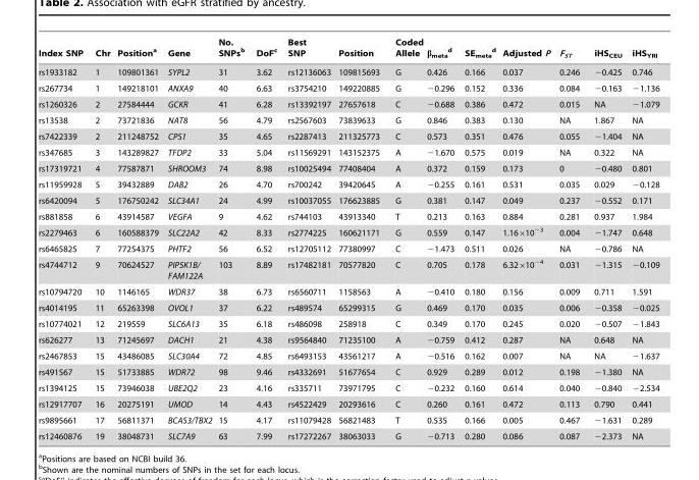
<table><thead><tr><td>Index SNP</td><td>Chr</td><td>Position<sup>a</sup></td><td>Gene</td><td>No. SNPs<sup>b</sup></td><td>DoF<sup>c</sup></td><td>Best SNP</td><td>Position</td><td>Coded Allele</td><td>β<sub>meta</sub> d</td><td>SE<sub>meta</sub> d</td><td>Adjusted P</td><td>F<sub>ST</sub></td><td>iHS<sub>CEU</sub></td><td>iHS<sub>YRI</sub></td></tr></thead><tbody><tr><td>rs1933182</td><td>1</td><td>109801361</td><td>SYPL2</td><td>31</td><td>3.62</td><td>rs12136063</td><td>109815693</td><td>G</td><td>0.426</td><td>0.166</td><td>0.037</td><td>0.246</td><td>−0.425</td><td>0.746</td></tr><tr><td>rs267734</td><td>1</td><td>149218101</td><td>ANXA9</td><td>40</td><td>6.63</td><td>rs3754210</td><td>149220885</td><td>G</td><td>−0.296</td><td>0.152</td><td>0.336</td><td>0.084</td><td>−0.163</td><td>−1.136</td></tr><tr><td>rs1260326</td><td>2</td><td>27584444</td><td>GCKR</td><td>41</td><td>6.28</td><td>rs13392197</td><td>27657618</td><td>C</td><td>−0.688</td><td>0.386</td><td>0.472</td><td>0.015</td><td>NA</td><td>−1.079</td></tr><tr><td>rs13538</td><td>2</td><td>73721836</td><td>NAT8</td><td>56</td><td>4.79</td><td>rs2567603</td><td>73839633</td><td>G</td><td>0.846</td><td>0.383</td><td>0.130</td><td>NA</td><td>1.867</td><td>NA</td></tr><tr><td>rs7422339</td><td>2</td><td>211248752</td><td>CPS1</td><td>35</td><td>4.65</td><td>rs2287413</td><td>211325773</td><td>C</td><td>0.573</td><td>0.351</td><td>0.476</td><td>0.055</td><td>−1.404</td><td>NA</td></tr><tr><td>rs347685</td><td>3</td><td>143289827</td><td>TFDP2</td><td>33</td><td>5.04</td><td>rs11569291</td><td>143152375</td><td>A</td><td>−1.670</td><td>0.575</td><td>0.019</td><td>NA</td><td>0.322</td><td>NA</td></tr><tr><td>rs17319721</td><td>4</td><td>77587871</td><td>SHROOM3</td><td>74</td><td>8.98</td><td>rs10025494</td><td>77408404</td><td>A</td><td>0.372</td><td>0.159</td><td>0.173</td><td>0</td><td>−0.480</td><td>0.801</td></tr><tr><td>rs11959928</td><td>5</td><td>39432889</td><td>DAB2</td><td>26</td><td>4.70</td><td>rs700242</td><td>39420645</td><td>A</td><td>−0.255</td><td>0.161</td><td>0.531</td><td>0.035</td><td>0.029</td><td>−0.128</td></tr><tr><td>rs6420094</td><td>5</td><td>176750242</td><td>SLC34A1</td><td>24</td><td>4.99</td><td>rs10037055</td><td>176623885</td><td>G</td><td>0.381</td><td>0.147</td><td>0.049</td><td>0.237</td><td>−0.552</td><td>0.171</td></tr><tr><td>rs881858</td><td>6</td><td>43914587</td><td>VEGFA</td><td>9</td><td>4.62</td><td>rs744103</td><td>43913340</td><td>T</td><td>0.213</td><td>0.163</td><td>0.884</td><td>0.281</td><td>0.937</td><td>1.984</td></tr><tr><td>rs2279463</td><td>6</td><td>160588379</td><td>SLC22A2</td><td>42</td><td>8.33</td><td>rs2774225</td><td>160621171</td><td>G</td><td>0.559</td><td>0.147</td><td>1.16×10<sup>−3</sup></td><td>0.004</td><td>−1.747</td><td>0.648</td></tr><tr><td>rs6465825</td><td>7</td><td>77254375</td><td>PHTF2</td><td>56</td><td>6.52</td><td>rs12705112</td><td>77380997</td><td>C</td><td>−1.473</td><td>0.511</td><td>0.026</td><td>NA</td><td>−0.786</td><td>NA</td></tr><tr><td>rs4744712</td><td>9</td><td>70624527</td><td>PIP5K1B/ FAM122A</td><td>103</td><td>8.89</td><td>rs17482181</td><td>70577820</td><td>C</td><td>0.705</td><td>0.178</td><td>6.32×10<sup>−4</sup></td><td>0.031</td><td>−1.315</td><td>−0.109</td></tr><tr><td>rs10794720</td><td>10</td><td>1146165</td><td>WDR37</td><td>38</td><td>6.73</td><td>rs6560711</td><td>1158563</td><td>A</td><td>−0.410</td><td>0.180</td><td>0.156</td><td>0.009</td><td>0.711</td><td>1.591</td></tr><tr><td>rs4014195</td><td>11</td><td>65263398</td><td>OVOL1</td><td>37</td><td>6.22</td><td>rs489574</td><td>65299315</td><td>G</td><td>0.469</td><td>0.170</td><td>0.035</td><td>0.006</td><td>−0.358</td><td>−0.025</td></tr><tr><td>rs10774021</td><td>12</td><td>219559</td><td>SLC6A13</td><td>35</td><td>6.18</td><td>rs486098</td><td>258918</td><td>C</td><td>0.349</td><td>0.170</td><td>0.245</td><td>0.020</td><td>−0.507</td><td>−1.843</td></tr><tr><td>rs626277</td><td>13</td><td>71245697</td><td>DACH1</td><td>21</td><td>4.38</td><td>rs9564840</td><td>71235100</td><td>A</td><td>−0.759</td><td>0.412</td><td>0.287</td><td>NA</td><td>0.648</td><td>NA</td></tr><tr><td>rs2467853</td><td>15</td><td>43486085</td><td>SLC30A4</td><td>72</td><td>4.85</td><td>rs6493153</td><td>43561217</td><td>A</td><td>−0.516</td><td>0.162</td><td>0.007</td><td>NA</td><td>NA</td><td>−1.637</td></tr><tr><td>rs491567</td><td>15</td><td>51733885</td><td>WDR72</td><td>98</td><td>9.46</td><td>rs4332691</td><td>51677654</td><td>C</td><td>0.929</td><td>0.289</td><td>0.012</td><td>0.198</td><td>−1.380</td><td>NA</td></tr><tr><td>rs1394125</td><td>15</td><td>73946038</td><td>UBE2Q2</td><td>23</td><td>4.16</td><td>rs335711</td><td>73971795</td><td>C</td><td>−0.232</td><td>0.160</td><td>0.614</td><td>0.040</td><td>−0.840</td><td>−2.534</td></tr><tr><td>rs12917707</td><td>16</td><td>20275191</td><td>UMOD</td><td>14</td><td>4.43</td><td>rs4522429</td><td>20293616</td><td>C</td><td>0.260</td><td>0.161</td><td>0.472</td><td>0.113</td><td>0.790</td><td>0.441</td></tr><tr><td>rs9895661</td><td>17</td><td>56811371</td><td>BCAS3/TBX2</td><td>15</td><td>4.17</td><td>rs11079428</td><td>56821483</td><td>T</td><td>0.535</td><td>0.166</td><td>0.005</td><td>0.467</td><td>−1.631</td><td>0.289</td></tr><tr><td>rs12460876</td><td>19</td><td>38048731</td><td>SLC7A9</td><td>63</td><td>7.99</td><td>rs17272267</td><td>38063033</td><td>G</td><td>−0.713</td><td>0.280</td><td>0.086</td><td>0.087</td><td>−2.373</td><td>NA</td></tr></tbody></table>